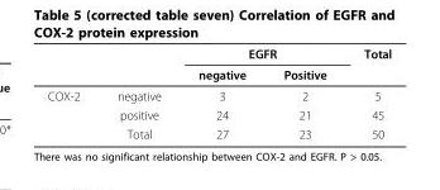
<table><thead><tr><td rowspan="2"></td><td rowspan="2"></td><td colspan="2">EGFR</td><td rowspan="2">Total</td></tr><tr><td>negative</td><td>Positive</td></tr></thead><tbody><tr><td rowspan="3">COX-2</td><td>negative</td><td>3</td><td>2</td><td>5</td></tr><tr><td>positive</td><td>24</td><td>21</td><td>45</td></tr><tr><td>Total</td><td>27</td><td>23</td><td>50</td></tr></tbody></table>